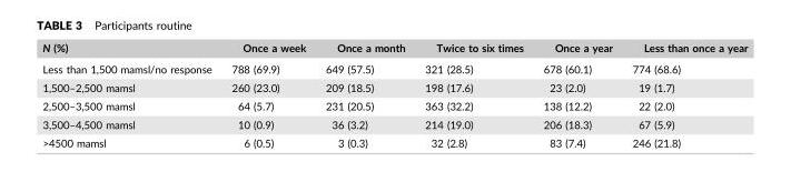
<table><thead><tr><td>N (%)</td><td>Once a week</td><td>Once a month</td><td>Twice to six times</td><td>Once a year</td><td>Less than once a year</td></tr></thead><tbody><tr><td>Less than 1,500 mamsl/no response</td><td>788 (69.9)</td><td>649 (57.5)</td><td>321 (28.5)</td><td>678 (60.1)</td><td>774 (68.6)</td></tr><tr><td>1,500–2,500 mamsl</td><td>260 (23.0)</td><td>209 (18.5)</td><td>198 (17.6)</td><td>23 (2.0)</td><td>19 (1.7)</td></tr><tr><td>2,500–3,500 mamsl</td><td>64 (5.7)</td><td>231 (20.5)</td><td>363 (32.2)</td><td>138 (12.2)</td><td>22 (2.0)</td></tr><tr><td>3,500–4,500 mamsl</td><td>10 (0.9)</td><td>36 (3.2)</td><td>214 (19.0)</td><td>206 (18.3)</td><td>67 (5.9)</td></tr><tr><td>&gt;4500 mamsl</td><td>6 (0.5)</td><td>3 (0.3)</td><td>32 (2.8)</td><td>83 (7.4)</td><td>246 (21.8)</td></tr></tbody></table>